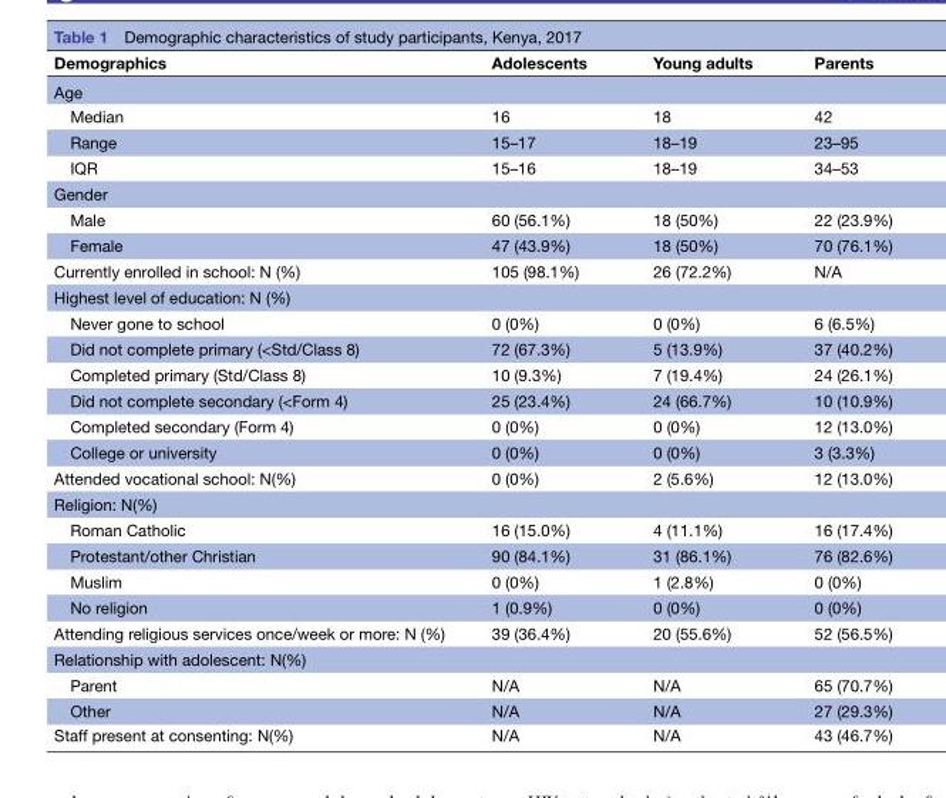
<table><thead><tr><td>Demographics</td><td>Adolescents</td><td>Young adults</td><td>Parents</td></tr></thead><tbody><tr><td colspan="4">Age</td></tr><tr><td>Median</td><td>16</td><td>18</td><td>42</td></tr><tr><td>Range</td><td>15–17</td><td>18–19</td><td>23–95</td></tr><tr><td>IQR</td><td>15–16</td><td>18–19</td><td>34–53</td></tr><tr><td colspan="4">Gender</td></tr><tr><td>Male</td><td>60 (56.1%)</td><td>18 (50%)</td><td>22 (23.9%)</td></tr><tr><td>Female</td><td>47 (43.9%)</td><td>18 (50%)</td><td>70 (76.1%)</td></tr><tr><td>Currently enrolled in school: N (%)</td><td>105 (98.1%)</td><td>26 (72.2%)</td><td>N/A</td></tr><tr><td colspan="4">Highest level of education: N (%)</td></tr><tr><td>Never gone to school</td><td>0 (0%)</td><td>0 (0%)</td><td>6 (6.5%)</td></tr><tr><td>Did not complete primary (&lt;Std/Class 8)</td><td>72 (67.3%)</td><td>5 (13.9%)</td><td>37 (40.2%)</td></tr><tr><td>Completed primary (Std/Class 8)</td><td>10 (9.3%)</td><td>7 (19.4%)</td><td>24 (26.1%)</td></tr><tr><td>Did not complete secondary (&lt;Form 4)</td><td>25 (23.4%)</td><td>24 (66.7%)</td><td>10 (10.9%)</td></tr><tr><td>Completed secondary (Form 4)</td><td>0 (0%)</td><td>0 (0%)</td><td>12 (13.0%)</td></tr><tr><td>College or university</td><td>0 (0%)</td><td>0 (0%)</td><td>3 (3.3%)</td></tr><tr><td>Attended vocational school: N(%)</td><td>0 (0%)</td><td>2 (5.6%)</td><td>12 (13.0%)</td></tr><tr><td colspan="4">Religion: N(%)</td></tr><tr><td>Roman Catholic</td><td>16 (15.0%)</td><td>4 (11.1%)</td><td>16 (17.4%)</td></tr><tr><td>Protestant/other Christian</td><td>90 (84.1%)</td><td>31 (86.1%)</td><td>76 (82.6%)</td></tr><tr><td>Muslim</td><td>0 (0%)</td><td>1 (2.8%)</td><td>0 (0%)</td></tr><tr><td>No religion</td><td>1 (0.9%)</td><td>0 (0%)</td><td>0 (0%)</td></tr><tr><td>Attending religious services once/week or more: N (%)</td><td>39 (36.4%)</td><td>20 (55.6%)</td><td>52 (56.5%)</td></tr><tr><td colspan="4">Relationship with adolescent: N(%)</td></tr><tr><td>Parent</td><td>N/A</td><td>N/A</td><td>65 (70.7%)</td></tr><tr><td>Other</td><td>N/A</td><td>N/A</td><td>27 (29.3%)</td></tr><tr><td>Staff present at consenting: N(%)</td><td>N/A</td><td>N/A</td><td>43 (46.7%)</td></tr></tbody></table>